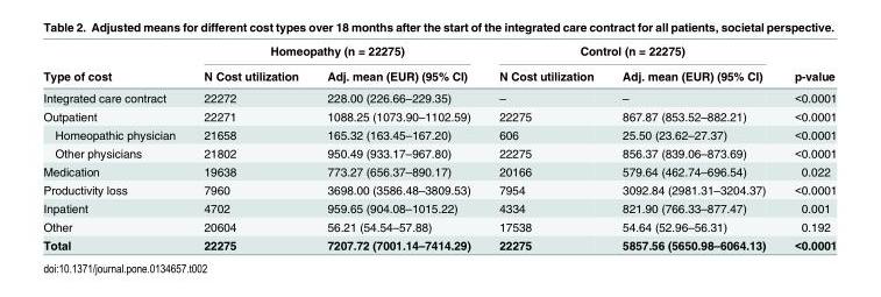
<table><thead><tr><td rowspan="2">Type of cost</td><td colspan="2">Homeopathy (n = 22275)</td><td colspan="2">Control (n = 22275)</td><td rowspan="2">p-value</td></tr><tr><td>N Cost utilization</td><td>Adj. mean (EUR) (95% CI)</td><td>N Cost utilization</td><td>Adj. mean (EUR) (95% CI)</td></tr></thead><tbody><tr><td>Integrated care contract</td><td>22272</td><td>228.00 (226.66–229.35)</td><td>–</td><td>–</td><td>&lt;0.0001</td></tr><tr><td>Outpatient</td><td>22271</td><td>1088.25 (1073.90–1102.59)</td><td>22275</td><td>867.87 (853.52–882.21)</td><td>&lt;0.0001</td></tr><tr><td>Homeopathic physician</td><td>21658</td><td>165.32 (163.45–167.20)</td><td>606</td><td>25.50 (23.62–27.37)</td><td>&lt;0.0001</td></tr><tr><td>Other physicians</td><td>21802</td><td>950.49 (933.17–967.80)</td><td>22275</td><td>856.37 (839.06–873.69)</td><td>&lt;0.0001</td></tr><tr><td>Medication</td><td>19638</td><td>773.27 (656.37–890.17)</td><td>20166</td><td>579.64 (462.74–696.54)</td><td>0.022</td></tr><tr><td>Productivity loss</td><td>7960</td><td>3698.00 (3586.48–3809.53)</td><td>7954</td><td>3092.84 (2981.31–3204.37)</td><td>&lt;0.0001</td></tr><tr><td>Inpatient</td><td>4702</td><td>959.65 (904.08–1015.22)</td><td>4334</td><td>821.90 (766.33–877.47)</td><td>0.001</td></tr><tr><td>Other</td><td>20604</td><td>56.21 (54.54–57.88)</td><td>17538</td><td>54.64 (52.96–56.31)</td><td>0.192</td></tr><tr><td>Total</td><td>22275</td><td>7207.72 (7001.14–7414.29)</td><td>22275</td><td>5857.56 (5650.98–6064.13)</td><td>&lt;0.0001</td></tr></tbody></table>